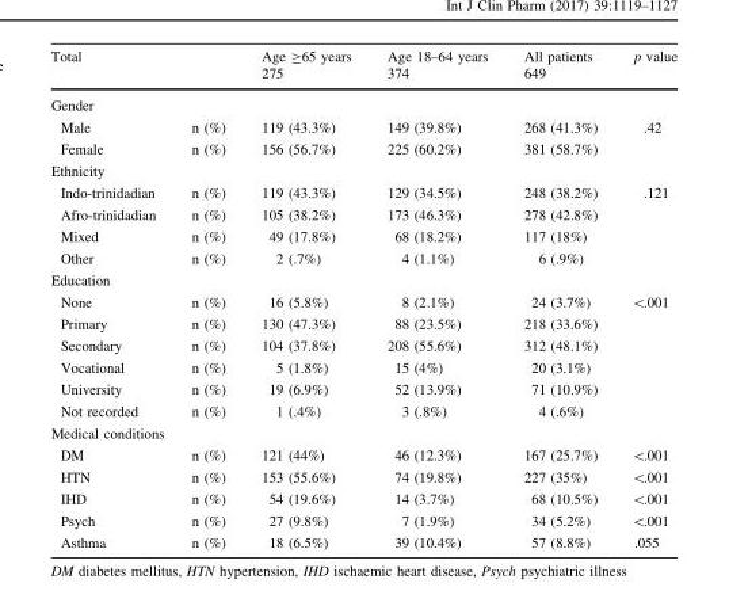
<table><thead><tr><td rowspan="2">Total</td><td rowspan="2"></td><td rowspan="2">Age ≥65 years 275</td><td rowspan="2">Age 18–64 years 374</td><td rowspan="2">All patients 649</td><td rowspan="2">p value</td></tr><tr></tr></thead><tbody><tr><td colspan="6">Gender</td></tr><tr><td>Male</td><td>n (%)</td><td>119 (43.3%)</td><td>149 (39.8%)</td><td>268 (41.3%)</td><td>.42</td></tr><tr><td>Female</td><td>n (%)</td><td>156 (56.7%)</td><td>225 (60.2%)</td><td>381 (58.7%)</td><td></td></tr><tr><td colspan="6">Ethnicity</td></tr><tr><td>Indo-trinidadian</td><td>n (%)</td><td>119 (43.3%)</td><td>129 (34.5%)</td><td>248 (38.2%)</td><td>.121</td></tr><tr><td>Afro-trinidadian</td><td>n (%)</td><td>105 (38.2%)</td><td>173 (46.3%)</td><td>278 (42.8%)</td><td></td></tr><tr><td>Mixed</td><td>n (%)</td><td>49 (17.8%)</td><td>68 (18.2%)</td><td>117 (18%)</td><td></td></tr><tr><td>Other</td><td>n (%)</td><td>2 (.7%)</td><td>4 (1.1%)</td><td>6 (.9%)</td><td></td></tr><tr><td colspan="6">Education</td></tr><tr><td>None</td><td>n (%)</td><td>16 (5.8%)</td><td>8 (2.1%)</td><td>24 (3.7%)</td><td>&lt;.001</td></tr><tr><td>Primary</td><td>n (%)</td><td>130 (47.3%)</td><td>88 (23.5%)</td><td>218 (33.6%)</td><td></td></tr><tr><td>Secondary</td><td>n (%)</td><td>104 (37.8%)</td><td>208 (55.6%)</td><td>312 (48.1%)</td><td></td></tr><tr><td>Vocational</td><td>n (%)</td><td>5 (1.8%)</td><td>15 (4%)</td><td>20 (3.1%)</td><td></td></tr><tr><td>University</td><td>n (%)</td><td>19 (6.9%)</td><td>52 (13.9%)</td><td>71 (10.9%)</td><td></td></tr><tr><td>Not recorded</td><td>n (%)</td><td>1 (.4%)</td><td>3 (.8%)</td><td>4 (.6%)</td><td></td></tr><tr><td colspan="6">Medical conditions</td></tr><tr><td>DM</td><td>n (%)</td><td>121 (44%)</td><td>46 (12.3%)</td><td>167 (25.7%)</td><td>&lt;.001</td></tr><tr><td>HTN</td><td>n (%)</td><td>153 (55.6%)</td><td>74 (19.8%)</td><td>227 (35%)</td><td>&lt;.001</td></tr><tr><td>IHD</td><td>n (%)</td><td>54 (19.6%)</td><td>14 (3.7%)</td><td>68 (10.5%)</td><td>&lt;.001</td></tr><tr><td>Psych</td><td>n (%)</td><td>27 (9.8%)</td><td>7 (1.9%)</td><td>34 (5.2%)</td><td>&lt;.001</td></tr><tr><td>Asthma</td><td>n (%)</td><td>18 (6.5%)</td><td>39 (10.4%)</td><td>57 (8.8%)</td><td>.055</td></tr></tbody></table>